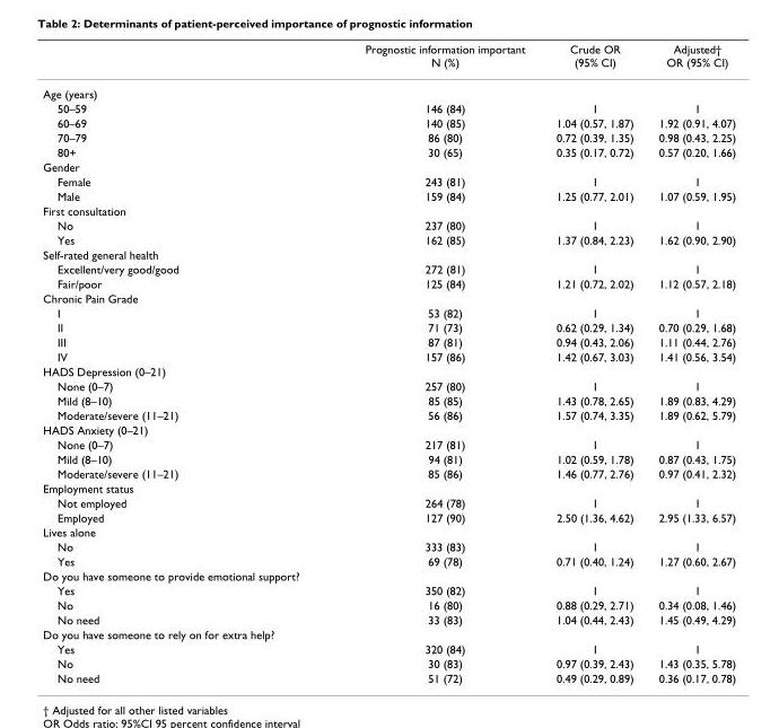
<table><thead><tr><td></td><td>Prognostic information important N (%)</td><td>Crude OR (95% CI)</td><td>Adjusted† OR (95% CI)</td></tr></thead><tbody><tr><td colspan="4">Age (years)</td></tr><tr><td>50–59</td><td>146 (84)</td><td>1</td><td>1</td></tr><tr><td>60–69</td><td>140 (85)</td><td>1.04 (0.57, 1.87)</td><td>1.92 (0.91, 4.07)</td></tr><tr><td>70–79</td><td>86 (80)</td><td>0.72 (0.39, 1.35)</td><td>0.98 (0.43, 2.25)</td></tr><tr><td>80+</td><td>30 (65)</td><td>0.35 (0.17, 0.72)</td><td>0.57 (0.20, 1.66)</td></tr><tr><td colspan="4">Gender</td></tr><tr><td>Female</td><td>243 (81)</td><td>1</td><td>1</td></tr><tr><td>Male</td><td>159 (84)</td><td>1.25 (0.77, 2.01)</td><td>1.07 (0.59, 1.95)</td></tr><tr><td colspan="4">First consultation</td></tr><tr><td>No</td><td>237 (80)</td><td>1</td><td>1</td></tr><tr><td>Yes</td><td>162 (85)</td><td>1.37 (0.84, 2.23)</td><td>1.62 (0.90, 2.90)</td></tr><tr><td colspan="4">Self-rated general health</td></tr><tr><td>Excellent/very good/good</td><td>272 (81)</td><td>1</td><td>1</td></tr><tr><td>Fair/poor</td><td>125 (84)</td><td>1.21 (0.72, 2.02)</td><td>1.12 (0.57, 2.18)</td></tr><tr><td colspan="4">Chronic Pain Grade</td></tr><tr><td>I</td><td>53 (82)</td><td>1</td><td>1</td></tr><tr><td>II</td><td>71 (73)</td><td>0.62 (0.29, 1.34)</td><td>0.70 (0.29, 1.68)</td></tr><tr><td>III</td><td>87 (81)</td><td>0.94 (0.43, 2.06)</td><td>1.11 (0.44, 2.76)</td></tr><tr><td>IV</td><td>157 (86)</td><td>1.42 (0.67, 3.03)</td><td>1.41 (0.56, 3.54)</td></tr><tr><td colspan="4">HADS Depression (0–21)</td></tr><tr><td>None (0–7)</td><td>257 (80)</td><td>1</td><td>1</td></tr><tr><td>Mild (8–10)</td><td>85 (85)</td><td>1.43 (0.78, 2.65)</td><td>1.89 (0.83, 4.29)</td></tr><tr><td>Moderate/severe (11–21)</td><td>56 (86)</td><td>1.57 (0.74, 3.35)</td><td>1.89 (0.62, 5.79)</td></tr><tr><td colspan="4">HADS Anxiety (0–21)</td></tr><tr><td>None (0–7)</td><td>217 (81)</td><td>1</td><td>1</td></tr><tr><td>Mild (8–10)</td><td>94 (81)</td><td>1.02 (0.59, 1.78)</td><td>0.87 (0.43, 1.75)</td></tr><tr><td>Moderate/severe (11–21)</td><td>85 (86)</td><td>1.46 (0.77, 2.76)</td><td>0.97 (0.41, 2.32)</td></tr><tr><td colspan="4">Employment status</td></tr><tr><td>Not employed</td><td>264 (78)</td><td>1</td><td>1</td></tr><tr><td>Employed</td><td>127 (90)</td><td>2.50 (1.36, 4.62)</td><td>2.95 (1.33, 6.57)</td></tr><tr><td colspan="4">Lives alone</td></tr><tr><td>No</td><td>333 (83)</td><td>1</td><td>1</td></tr><tr><td>Yes</td><td>69 (78)</td><td>0.71 (0.40, 1.24)</td><td>1.27 (0.60, 2.67)</td></tr><tr><td colspan="4">Do you have someone to provide emotional support?</td></tr><tr><td>Yes</td><td>350 (82)</td><td>1</td><td>1</td></tr><tr><td>No</td><td>16 (80)</td><td>0.88 (0.29, 2.71)</td><td>0.34 (0.08, 1.46)</td></tr><tr><td>No need</td><td>33 (83)</td><td>1.04 (0.44, 2.43)</td><td>1.45 (0.49, 4.29)</td></tr><tr><td colspan="4">Do you have someone to rely on for extra help?</td></tr><tr><td>Yes</td><td>320 (84)</td><td>1</td><td>1</td></tr><tr><td>No</td><td>30 (83)</td><td>0.97 (0.39, 2.43)</td><td>1.43 (0.35, 5.78)</td></tr><tr><td>No need</td><td>51 (72)</td><td>0.49 (0.29, 0.89)</td><td>0.36 (0.17, 0.78)</td></tr></tbody></table>